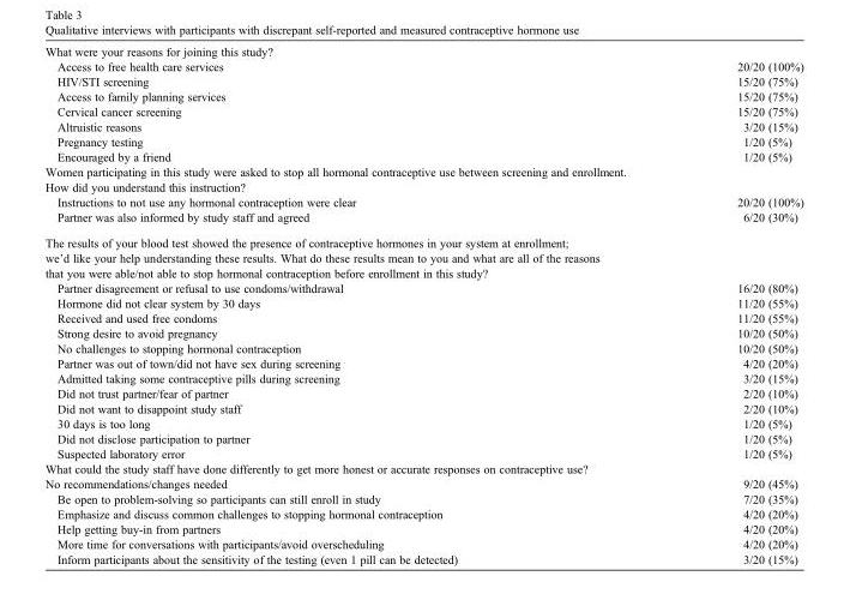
<table><tbody><tr><td colspan="2">What were your reasons for joining this study?</td></tr><tr><td>Access to free health care services</td><td>20/20 (100%)</td></tr><tr><td>HIV/STI screening</td><td>15/20 (75%)</td></tr><tr><td>Access to family planning services</td><td>15/20 (75%)</td></tr><tr><td>Cervical cancer screening</td><td>15/20 (75%)</td></tr><tr><td>Altruistic reasons</td><td>3/20 (15%)</td></tr><tr><td>Pregnancy testing</td><td>1/20 (5%)</td></tr><tr><td>Encouraged by a friend</td><td>1/20 (5%)</td></tr><tr><td colspan="2">Women participating in this study were asked to stop all hormonal contraceptive use between screening and enrollment. How did you understand this instruction?</td></tr><tr><td>Instructions to not use any hormonal contraception were clear</td><td>20/20 (100%)</td></tr><tr><td>Partner was also informed by study staff and agreed</td><td>6/20 (30%)</td></tr><tr><td colspan="2">The results of your blood test showed the presence of contraceptive hormones in your system at enrollment; we&#x27;d like your help understanding these results. What do these results mean to you and what are all of the reasons that you were able/not able to stop hormonal contraception before enrollment in this study?</td></tr><tr><td>Partner disagreement or refusal to use condoms/withdrawal</td><td>16/20 (80%)</td></tr><tr><td>Hormone did not clear system by 30 days</td><td>11/20 (55%)</td></tr><tr><td>Received and used free condoms</td><td>11/20 (55%)</td></tr><tr><td>Strong desire to avoid pregnancy</td><td>10/20 (50%)</td></tr><tr><td>No challenges to stopping hormonal contraception</td><td>10/20 (50%)</td></tr><tr><td>Partner was out of town/did not have sex during screening</td><td>4/20 (20%)</td></tr><tr><td>Admitted taking some contraceptive pills during screening</td><td>3/20 (15%)</td></tr><tr><td>Did not trust partner/fear of partner</td><td>2/20 (10%)</td></tr><tr><td>Did not want to disappoint study staff</td><td>2/20 (10%)</td></tr><tr><td>30 days is too long</td><td>1/20 (5%)</td></tr><tr><td>Did not disclose participation to partner</td><td>1/20 (5%)</td></tr><tr><td>Suspected laboratory error</td><td>1/20 (5%)</td></tr><tr><td colspan="2">What could the study staff have done differently to get more honest or accurate responses on contraceptive use?</td></tr><tr><td>No recommendations/changes needed</td><td>9/20 (45%)</td></tr><tr><td>Be open to problem-solving so participants can still enroll in study</td><td>7/20 (35%)</td></tr><tr><td>Emphasize and discuss common challenges to stopping hormonal contraception</td><td>4/20 (20%)</td></tr><tr><td>Help getting buy-in from partners</td><td>4/20 (20%)</td></tr><tr><td>More time for conversations with participants/avoid overscheduling</td><td>4/20 (20%)</td></tr><tr><td>Inform participants about the sensitivity of the testing (even 1 pill can be detected)</td><td>3/20 (15%)</td></tr></tbody></table>